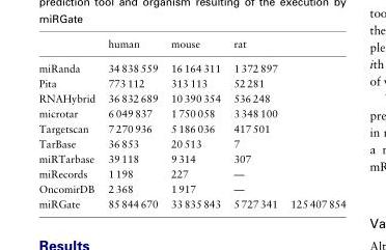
<table><thead><tr><td></td><td>human</td><td>mouse</td><td>rat</td><td></td></tr></thead><tbody><tr><td>miRanda</td><td>34 838 559</td><td>16 164 311</td><td>1 372 897</td><td></td></tr><tr><td>Pita</td><td>773 112</td><td>313 113</td><td>52 281</td><td></td></tr><tr><td>RNAHybrid</td><td>36 832 689</td><td>10 390 354</td><td>536 248</td><td></td></tr><tr><td>microtar</td><td>6 049 837</td><td>1 750 058</td><td>3 348 100</td><td></td></tr><tr><td>Targetscan</td><td>7 270 936</td><td>5 186 036</td><td>417 501</td><td></td></tr><tr><td>TarBase</td><td>36 853</td><td>20 513</td><td>7</td><td></td></tr><tr><td>miRTarbase</td><td>39 118</td><td>9 314</td><td>307</td><td></td></tr><tr><td>miRecords</td><td>1 198</td><td>227</td><td>—</td><td></td></tr><tr><td>OncomirDB</td><td>2 368</td><td>1 917</td><td>—</td><td></td></tr><tr><td>miRGate</td><td>85 844 670</td><td>33 835 843</td><td>5 727 341</td><td>125 407 854</td></tr></tbody></table>